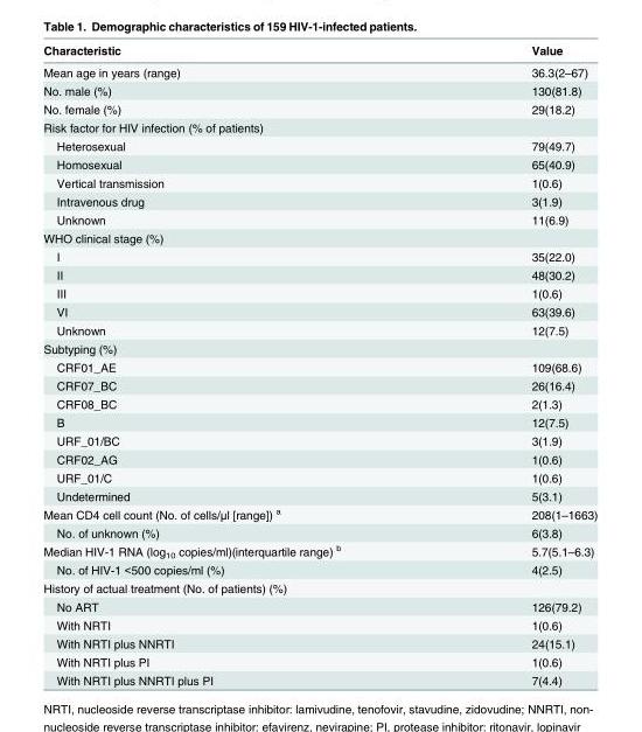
<table><thead><tr><td>Characteristic</td><td>Value</td></tr></thead><tbody><tr><td>Mean age in years (range)</td><td>36.3(2–67)</td></tr><tr><td>No. male (%)</td><td>130(81.8)</td></tr><tr><td>No. female (%)</td><td>29(18.2)</td></tr><tr><td colspan="2">Risk factor for HIV infection (% of patients)</td></tr><tr><td>Heterosexual</td><td>79(49.7)</td></tr><tr><td>Homosexual</td><td>65(40.9)</td></tr><tr><td>Vertical transmission</td><td>1(0.6)</td></tr><tr><td>Intravenous drug</td><td>3(1.9)</td></tr><tr><td>Unknown</td><td>11(6.9)</td></tr><tr><td colspan="2">WHO clinical stage (%)</td></tr><tr><td>I</td><td>35(22.0)</td></tr><tr><td>II</td><td>48(30.2)</td></tr><tr><td>III</td><td>1(0.6)</td></tr><tr><td>VI</td><td>63(39.6)</td></tr><tr><td>Unknown</td><td>12(7.5)</td></tr><tr><td colspan="2">Subtyping (%)</td></tr><tr><td>CRF01_AE</td><td>109(68.6)</td></tr><tr><td>CRF07_BC</td><td>26(16.4)</td></tr><tr><td>CRF08_BC</td><td>2(1.3)</td></tr><tr><td>B</td><td>12(7.5)</td></tr><tr><td>URF_01/BC</td><td>3(1.9)</td></tr><tr><td>CRF02_AG</td><td>1(0.6)</td></tr><tr><td>URF_01/C</td><td>1(0.6)</td></tr><tr><td>Undetermined</td><td>5(3.1)</td></tr><tr><td>Mean CD4 cell count (No. of cells/μl [range]) <sup>a</sup></td><td>208(1–1663)</td></tr><tr><td>No. of unknown (%)</td><td>6(3.8)</td></tr><tr><td>Median HIV-1 RNA (log<sub>10</sub> copies/ml)(interquartile range) <sup>b</sup></td><td>5.7(5.1–6.3)</td></tr><tr><td>No. of HIV-1 &lt;500 copies/ml (%)</td><td>4(2.5)</td></tr><tr><td colspan="2">History of actual treatment (No. of patients) (%)</td></tr><tr><td>No ART</td><td>126(79.2)</td></tr><tr><td>With NRTI</td><td>1(0.6)</td></tr><tr><td>With NRTI plus NNRTI</td><td>24(15.1)</td></tr><tr><td>With NRTI plus PI</td><td>1(0.6)</td></tr><tr><td>With NRTI plus NNRTI plus PI</td><td>7(4.4)</td></tr></tbody></table>